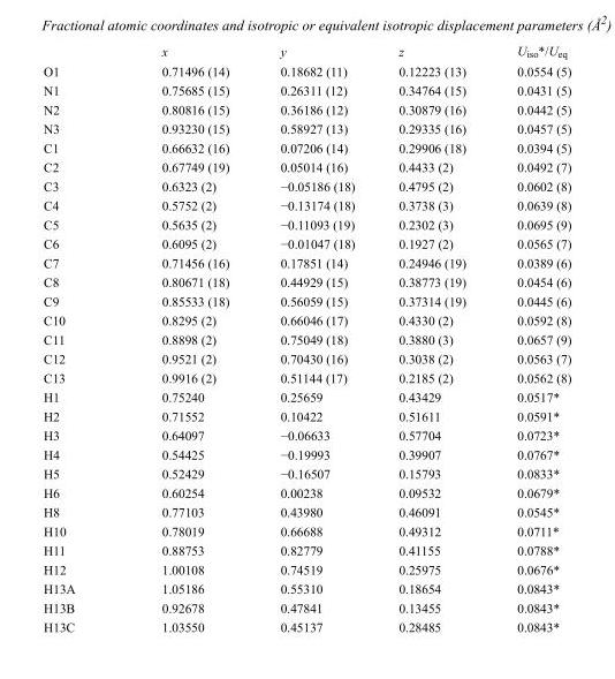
<table><thead><tr><td></td><td>x</td><td>y</td><td>z</td><td>U<sub>iso</sub>*/U<sub>eq</sub></td></tr></thead><tbody><tr><td>O1</td><td>0.71496 (14)</td><td>0.18682 (11)</td><td>0.12223 (13)</td><td>0.0554 (5)</td></tr><tr><td>N1</td><td>0.75685 (15)</td><td>0.26311 (12)</td><td>0.34764 (15)</td><td>0.0431 (5)</td></tr><tr><td>N2</td><td>0.80816 (15)</td><td>0.36186 (12)</td><td>0.30879 (16)</td><td>0.0442 (5)</td></tr><tr><td>N3</td><td>0.93230 (15)</td><td>0.58927 (13)</td><td>0.29335 (16)</td><td>0.0457 (5)</td></tr><tr><td>C1</td><td>0.66632 (16)</td><td>0.07206 (14)</td><td>0.29906 (18)</td><td>0.0394 (5)</td></tr><tr><td>C2</td><td>0.67749 (19)</td><td>0.05014 (16)</td><td>0.4433 (2)</td><td>0.0492 (7)</td></tr><tr><td>C3</td><td>0.6323 (2)</td><td>−0.05186 (18)</td><td>0.4795 (2)</td><td>0.0602 (8)</td></tr><tr><td>C4</td><td>0.5752 (2)</td><td>−0.13174 (18)</td><td>0.3738 (3)</td><td>0.0639 (8)</td></tr><tr><td>C5</td><td>0.5635 (2)</td><td>−0.11093 (19)</td><td>0.2302 (3)</td><td>0.0695 (9)</td></tr><tr><td>C6</td><td>0.6095 (2)</td><td>−0.01047 (18)</td><td>0.1927 (2)</td><td>0.0565 (7)</td></tr><tr><td>C7</td><td>0.71456 (16)</td><td>0.17851 (14)</td><td>0.24946 (19)</td><td>0.0389 (6)</td></tr><tr><td>C8</td><td>0.80671 (18)</td><td>0.44929 (15)</td><td>0.38773 (19)</td><td>0.0454 (6)</td></tr><tr><td>C9</td><td>0.85533 (18)</td><td>0.56059 (15)</td><td>0.37314 (19)</td><td>0.0445 (6)</td></tr><tr><td>C10</td><td>0.8295 (2)</td><td>0.66046 (17)</td><td>0.4330 (2)</td><td>0.0592 (8)</td></tr><tr><td>C11</td><td>0.8898 (2)</td><td>0.75049 (18)</td><td>0.3880 (3)</td><td>0.0657 (9)</td></tr><tr><td>C12</td><td>0.9521 (2)</td><td>0.70430 (16)</td><td>0.3038 (2)</td><td>0.0563 (7)</td></tr><tr><td>C13</td><td>0.9916 (2)</td><td>0.51144 (17)</td><td>0.2185 (2)</td><td>0.0562 (8)</td></tr><tr><td>H1</td><td>0.75240</td><td>0.25659</td><td>0.43429</td><td>0.0517*</td></tr><tr><td>H2</td><td>0.71552</td><td>0.10422</td><td>0.51611</td><td>0.0591*</td></tr><tr><td>H3</td><td>0.64097</td><td>−0.06633</td><td>0.57704</td><td>0.0723*</td></tr><tr><td>H4</td><td>0.54425</td><td>−0.19993</td><td>0.39907</td><td>0.0767*</td></tr><tr><td>H5</td><td>0.52429</td><td>−0.16507</td><td>0.15793</td><td>0.0833*</td></tr><tr><td>H6</td><td>0.60254</td><td>0.00238</td><td>0.09532</td><td>0.0679*</td></tr><tr><td>H8</td><td>0.77103</td><td>0.43980</td><td>0.46091</td><td>0.0545*</td></tr><tr><td>H10</td><td>0.78019</td><td>0.66688</td><td>0.49312</td><td>0.0711*</td></tr><tr><td>H11</td><td>0.88753</td><td>0.82779</td><td>0.41155</td><td>0.0788*</td></tr><tr><td>H12</td><td>1.00108</td><td>0.74519</td><td>0.25975</td><td>0.0676*</td></tr><tr><td>H13A</td><td>1.05186</td><td>0.55310</td><td>0.18654</td><td>0.0843*</td></tr><tr><td>H13B</td><td>0.92678</td><td>0.47841</td><td>0.13455</td><td>0.0843*</td></tr><tr><td>H13C</td><td>1.03550</td><td>0.45137</td><td>0.28485</td><td>0.0843*</td></tr></tbody></table>